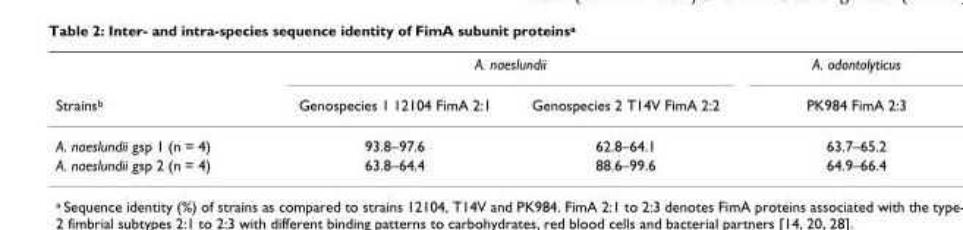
<table><thead><tr><td rowspan="2">Strainsb</td><td colspan="2">A. naeslundii</td><td rowspan="2">A. odontolyticus PK984 FimA 2:3</td></tr><tr><td>Genospecies 1 12104 FimA 2:1</td><td>Genospecies 2 T14V FimA 2:2</td></tr></thead><tbody><tr><td>A. naeslundii gsp 1 (n = 4)</td><td>93.8–97.6</td><td>62.8–64.1</td><td>63.7–65.2</td></tr><tr><td>A. naeslundii gsp 2 (n = 4)</td><td>63.8–64.4</td><td>88.6–99.6</td><td>64.9–66.4</td></tr></tbody></table>